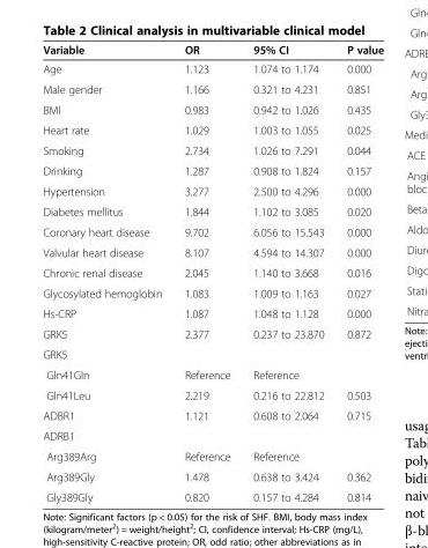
<table><thead><tr><td>Variable</td><td>OR</td><td>95% CI</td><td>P value</td></tr></thead><tbody><tr><td>Age</td><td>1.123</td><td>1.074 to 1.174</td><td>0.000</td></tr><tr><td>Male gender</td><td>1.166</td><td>0.321 to 4.231</td><td>0.851</td></tr><tr><td>BMI</td><td>0.983</td><td>0.942 to 1.026</td><td>0.435</td></tr><tr><td>Heart rate</td><td>1.029</td><td>1.003 to 1.055</td><td>0.025</td></tr><tr><td>Smoking</td><td>2.734</td><td>1.026 to 7.291</td><td>0.044</td></tr><tr><td>Drinking</td><td>1.287</td><td>0.908 to 1.824</td><td>0.157</td></tr><tr><td>Hypertension</td><td>3.277</td><td>2.500 to 4.296</td><td>0.000</td></tr><tr><td>Diabetes mellitus</td><td>1.844</td><td>1.102 to 3.085</td><td>0.020</td></tr><tr><td>Coronary heart disease</td><td>9.702</td><td>6.056 to 15.543</td><td>0.000</td></tr><tr><td>Valvular heart disease</td><td>8.107</td><td>4.594 to 14.307</td><td>0.000</td></tr><tr><td>Chronic renal disease</td><td>2.045</td><td>1.140 to 3.668</td><td>0.016</td></tr><tr><td>Glycosylated hemoglobin</td><td>1.083</td><td>1.009 to 1.163</td><td>0.027</td></tr><tr><td>Hs-CRP</td><td>1.087</td><td>1.048 to 1.128</td><td>0.000</td></tr><tr><td>GRK5</td><td>2.377</td><td>0.237 to 23.870</td><td>0.872</td></tr><tr><td colspan="4">GRK5</td></tr><tr><td>Gln41Gln</td><td>Reference</td><td>Reference</td><td></td></tr><tr><td>Gln41Leu</td><td>2.219</td><td>0.216 to 22.812</td><td>0.503</td></tr><tr><td>ADBR1</td><td>1.121</td><td>0.608 to 2.064</td><td>0.715</td></tr><tr><td colspan="4">ADRB1</td></tr><tr><td>Arg389Arg</td><td>Reference</td><td>Reference</td><td></td></tr><tr><td>Arg389Gly</td><td>1.478</td><td>0.638 to 3.424</td><td>0.362</td></tr><tr><td>Gly389Gly</td><td>0.820</td><td>0.157 to 4.284</td><td>0.814</td></tr></tbody></table>